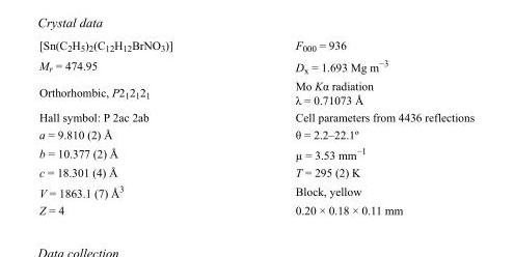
<table><tbody><tr><td>[Sn(C<sub>2</sub>H<sub>5</sub>)<sub>2</sub>(C<sub>12</sub>H<sub>12</sub>BrNO<sub>3</sub>)]</td><td>F000 = 936</td></tr><tr><td>M<sub>r</sub> = 474.95</td><td>D<sub>x</sub> = 1.693 Mg m<sup>−3</sup></td></tr><tr><td>Orthorhombic, P2<sub>1</sub>2<sub>1</sub>2<sub>1</sub></td><td>Mo Kα radiation λ = 0.71073 Å</td></tr><tr><td>Hall symbol: P 2ac 2ab</td><td>Cell parameters from 4436 reflections</td></tr><tr><td>a = 9.810 (2) Å</td><td>θ = 2.2–22.1º</td></tr><tr><td>b = 10.377 (2) Å</td><td>µ = 3.53 mm<sup>−1</sup></td></tr><tr><td>c = 18.301 (4) Å</td><td>T = 295 (2) K</td></tr><tr><td>V = 1863.1 (7) Å<sup>3</sup></td><td>Block, yellow</td></tr><tr><td>Z = 4</td><td>0.20 × 0.18 × 0.11 mm</td></tr></tbody></table>